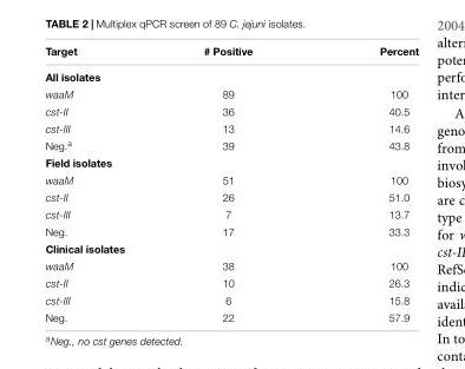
<table><thead><tr><td>Target</td><td># Positive</td><td>Percent</td></tr></thead><tbody><tr><td colspan="3">All isolates</td></tr><tr><td>waaM</td><td>89</td><td>100</td></tr><tr><td>cst-II</td><td>36</td><td>40.5</td></tr><tr><td>cst-III</td><td>13</td><td>14.6</td></tr><tr><td>Neg.<sup>a</sup></td><td>39</td><td>43.8</td></tr><tr><td colspan="3">Field isolates</td></tr><tr><td>waaM</td><td>51</td><td>100</td></tr><tr><td>cst-II</td><td>26</td><td>51.0</td></tr><tr><td>cst-III</td><td>7</td><td>13.7</td></tr><tr><td>Neg.</td><td>17</td><td>33.3</td></tr><tr><td colspan="3">Clinical isolates</td></tr><tr><td>waaM</td><td>38</td><td>100</td></tr><tr><td>cst-II</td><td>10</td><td>26.3</td></tr><tr><td>cst-III</td><td>6</td><td>15.8</td></tr><tr><td>Neg.</td><td>22</td><td>57.9</td></tr></tbody></table>